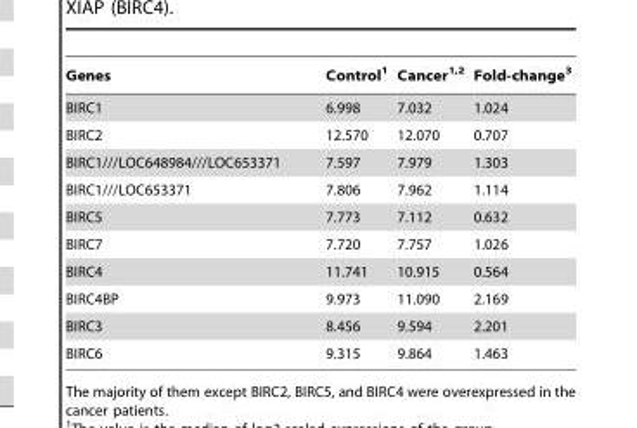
<table><thead><tr><td>Genes</td><td>Control<sup>1</sup></td><td>Cancer<sup>1,</sup>2</td><td>Fold-change<sup>3</sup></td></tr></thead><tbody><tr><td>BIRC1</td><td>6.998</td><td>7.032</td><td>1.024</td></tr><tr><td>BIRC2</td><td>12.570</td><td>12.070</td><td>0.707</td></tr><tr><td>BIRC1///LOC648984///LOC653371</td><td>7.597</td><td>7.979</td><td>1.303</td></tr><tr><td>BIRC1///LOC653371</td><td>7.806</td><td>7.962</td><td>1.114</td></tr><tr><td>BIRC5</td><td>7.773</td><td>7.112</td><td>0.632</td></tr><tr><td>BIRC7</td><td>7.720</td><td>7.757</td><td>1.026</td></tr><tr><td>BIRC4</td><td>11.741</td><td>10.915</td><td>0.564</td></tr><tr><td>BIRC4BP</td><td>9.973</td><td>11.090</td><td>2.169</td></tr><tr><td>BIRC3</td><td>8.456</td><td>9.594</td><td>2.201</td></tr><tr><td>BIRC6</td><td>9.315</td><td>9.864</td><td>1.463</td></tr></tbody></table>